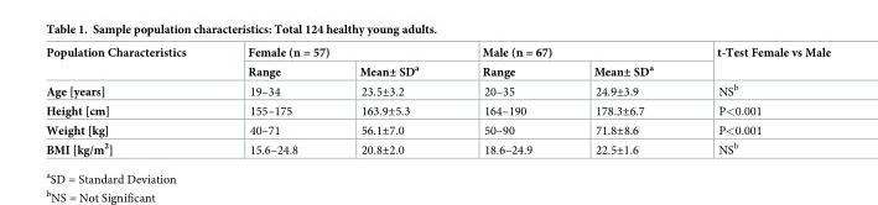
<table><thead><tr><td rowspan="2">Population Characteristics</td><td colspan="2">Female (n = 57)</td><td colspan="2">Male (n = 67)</td><td rowspan="2">t-Test Female vs Male</td></tr><tr><td>Range</td><td>Mean± SD<sup>a</sup></td><td>Range</td><td>Mean± SD<sup>a</sup></td></tr></thead><tbody><tr><td>Age [years]</td><td>19–34</td><td>23.5±3.2</td><td>20–35</td><td>24.9±3.9</td><td>NS<sup>b</sup></td></tr><tr><td>Height [cm]</td><td>155–175</td><td>163.9±5.3</td><td>164–190</td><td>178.3±6.7</td><td>P&lt;0.001</td></tr><tr><td>Weight [kg]</td><td>40–71</td><td>56.1±7.0</td><td>50–90</td><td>71.8±8.6</td><td>P&lt;0.001</td></tr><tr><td>BMI [kg/m<sup>2</sup>]</td><td>15.6–24.8</td><td>20.8±2.0</td><td>18.6–24.9</td><td>22.5±1.6</td><td>NS<sup>b</sup></td></tr></tbody></table>